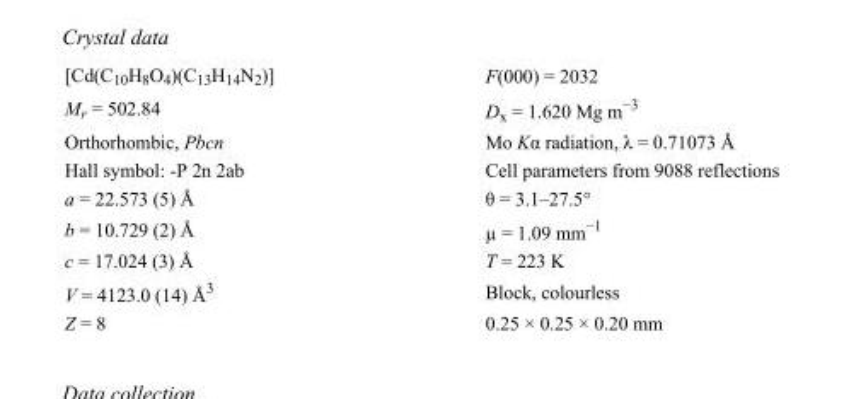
<table><tbody><tr><td>[Cd(C<sub>10</sub>H<sub>8</sub>O<sub>4</sub>)(C<sub>13</sub>H<sub>14</sub>N<sub>2</sub>)]</td><td>F(000) = 2032</td></tr><tr><td>M<sub>r</sub> = 502.84</td><td>D<sub>x</sub> = 1.620 Mg m<sup>−3</sup></td></tr><tr><td>Orthorhombic, Pbcn</td><td>Mo Kα radiation, λ = 0.71073 Å</td></tr><tr><td>Hall symbol: -P 2n 2ab</td><td>Cell parameters from 9088 reflections</td></tr><tr><td>a = 22.573 (5) Å</td><td>θ = 3.1–27.5°</td></tr><tr><td>b = 10.729 (2) Å</td><td>µ = 1.09 mm<sup>−1</sup></td></tr><tr><td>c = 17.024 (3) Å</td><td>T = 223 K</td></tr><tr><td>V = 4123.0 (14) Å<sup>3</sup></td><td>Block, colourless</td></tr><tr><td>Z = 8</td><td>0.25 × 0.25 × 0.20 mm</td></tr></tbody></table>